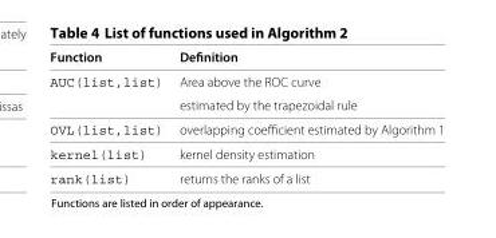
<table><thead><tr><td>Function</td><td>Definition</td></tr></thead><tbody><tr><td rowspan="2">AUC(list,list)</td><td>Area above the ROC curve</td></tr><tr><td>estimated by the trapezoidal rule</td></tr><tr><td>OVL(list,list)</td><td>overlapping coefficient estimated by Algorithm 1</td></tr><tr><td>kernel(list)</td><td>kernel density estimation</td></tr><tr><td>rank(list)</td><td>returns the ranks of a list</td></tr></tbody></table>